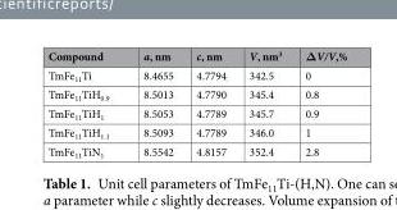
<table><thead><tr><td>Compound</td><td>a, nm</td><td>c, nm</td><td>V, nm<sup>3</sup></td><td>ΔV/V,%</td></tr></thead><tbody><tr><td>TmFe<sub>11</sub>Ti</td><td>8.4655</td><td>4.7794</td><td>342.5</td><td>0</td></tr><tr><td>TmFe<sub>11</sub>TiH<sub>0.9</sub></td><td>8.5013</td><td>4.7790</td><td>345.4</td><td>0.8</td></tr><tr><td>TmFe<sub>11</sub>TiH<sub>1</sub></td><td>8.5053</td><td>4.7789</td><td>345.7</td><td>0.9</td></tr><tr><td>TmFe<sub>11</sub>TiH<sub>1.1</sub></td><td>8.5093</td><td>4.7789</td><td>346.0</td><td>1</td></tr><tr><td>TmFe<sub>11</sub>TiN<sub>1</sub></td><td>8.5542</td><td>4.8157</td><td>352.4</td><td>2.8</td></tr></tbody></table>